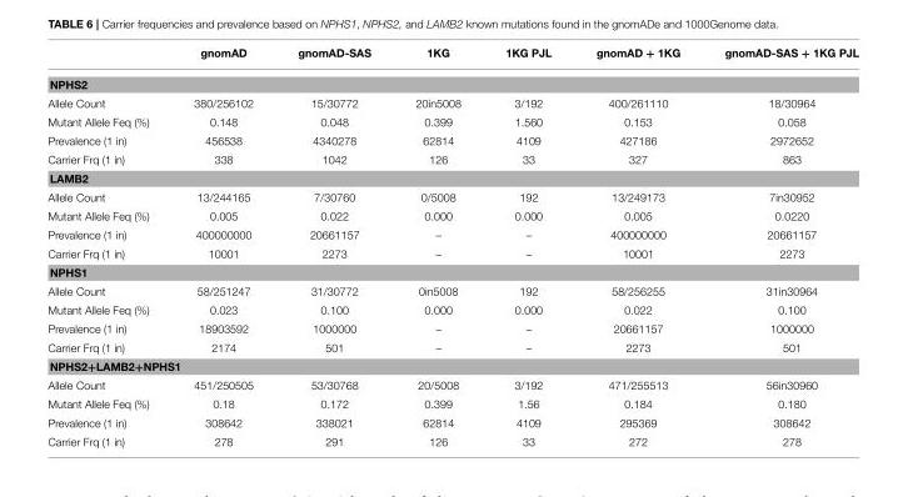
<table><thead><tr><td></td><td>gnomAD</td><td>gnomAD-SAS</td><td>1KG</td><td>1KG PJL</td><td>gnomAD + 1KG</td><td>gnomAD-SAS + 1KG PJL</td></tr></thead><tbody><tr><td colspan="7">NPHS2</td></tr><tr><td>Allele Count</td><td>380/256102</td><td>15/30772</td><td>20in5008</td><td>3/192</td><td>400/261110</td><td>18/30964</td></tr><tr><td>Mutant Allele Feq (%)</td><td>0.148</td><td>0.048</td><td>0.399</td><td>1.560</td><td>0.153</td><td>0.058</td></tr><tr><td>Prevalence (1 in)</td><td>456538</td><td>4340278</td><td>62814</td><td>4109</td><td>427186</td><td>2972652</td></tr><tr><td>Carrier Frq (1 in)</td><td>338</td><td>1042</td><td>126</td><td>33</td><td>327</td><td>863</td></tr><tr><td colspan="7">LAMB2</td></tr><tr><td>Allele Count</td><td>13/244165</td><td>7/30760</td><td>0/5008</td><td>192</td><td>13/249173</td><td>7in30952</td></tr><tr><td>Mutant Allele Feq (%)</td><td>0.005</td><td>0.022</td><td>0.000</td><td>0.000</td><td>0.005</td><td>0.0220</td></tr><tr><td>Prevalence (1 in)</td><td>400000000</td><td>20661157</td><td>–</td><td>–</td><td>400000000</td><td>20661157</td></tr><tr><td>Carrier Frq (1 in)</td><td>10001</td><td>2273</td><td>–</td><td>–</td><td>10001</td><td>2273</td></tr><tr><td colspan="7">NPHS1</td></tr><tr><td>Allele Count</td><td>58/251247</td><td>31/30772</td><td>0in5008</td><td>192</td><td>58/256255</td><td>31in30964</td></tr><tr><td>Mutant Allele Feq (%)</td><td>0.023</td><td>0.100</td><td>0.000</td><td>0.000</td><td>0.022</td><td>0.100</td></tr><tr><td>Prevalence (1 in)</td><td>18903592</td><td>1000000</td><td>–</td><td>–</td><td>20661157</td><td>1000000</td></tr><tr><td>Carrier Frq (1 in)</td><td>2174</td><td>501</td><td>–</td><td>–</td><td>2273</td><td>501</td></tr><tr><td colspan="7">NPHS2+LAMB2+NPHS1</td></tr><tr><td>Allele Count</td><td>451/250505</td><td>53/30768</td><td>20/5008</td><td>3/192</td><td>471/255513</td><td>56in30960</td></tr><tr><td>Mutant Allele Feq (%)</td><td>0.18</td><td>0.172</td><td>0.399</td><td>1.56</td><td>0.184</td><td>0.180</td></tr><tr><td>Prevalence (1 in)</td><td>308642</td><td>338021</td><td>62814</td><td>4109</td><td>295369</td><td>308642</td></tr><tr><td>Carrier Frq (1 in)</td><td>278</td><td>291</td><td>126</td><td>33</td><td>272</td><td>278</td></tr></tbody></table>